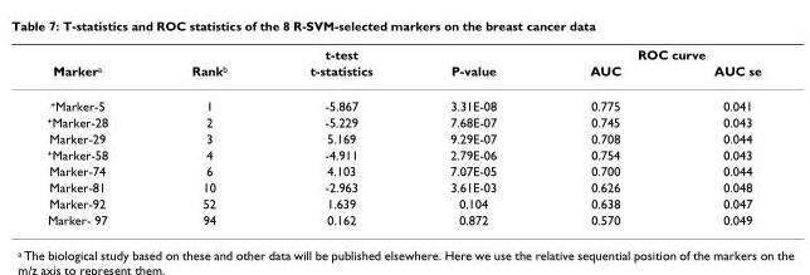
<table><thead><tr><td rowspan="2">Markera</td><td colspan="3">t-test</td><td colspan="2">ROC curve</td></tr><tr><td>Rankb</td><td>t-statistics</td><td>P-value</td><td>AUC</td><td>AUC se</td></tr></thead><tbody><tr><td>+Marker-5</td><td>1</td><td>-5.867</td><td>3.31E-08</td><td>0.775</td><td>0.041</td></tr><tr><td>+Marker-28</td><td>2</td><td>-5.229</td><td>7.68E-07</td><td>0.745</td><td>0.043</td></tr><tr><td>Marker-29</td><td>3</td><td>5.169</td><td>9.29E-07</td><td>0.708</td><td>0.044</td></tr><tr><td>+Marker-58</td><td>4</td><td>-4.911</td><td>2.79E-06</td><td>0.754</td><td>0.043</td></tr><tr><td>Marker-74</td><td>6</td><td>4.103</td><td>7.07E-05</td><td>0.700</td><td>0.044</td></tr><tr><td>Marker-81</td><td>10</td><td>-2.963</td><td>3.61E-03</td><td>0.626</td><td>0.048</td></tr><tr><td>Marker-92</td><td>52</td><td>1.639</td><td>0.104</td><td>0.638</td><td>0.047</td></tr><tr><td>Marker- 97</td><td>94</td><td>0.162</td><td>0.872</td><td>0.570</td><td>0.049</td></tr></tbody></table>